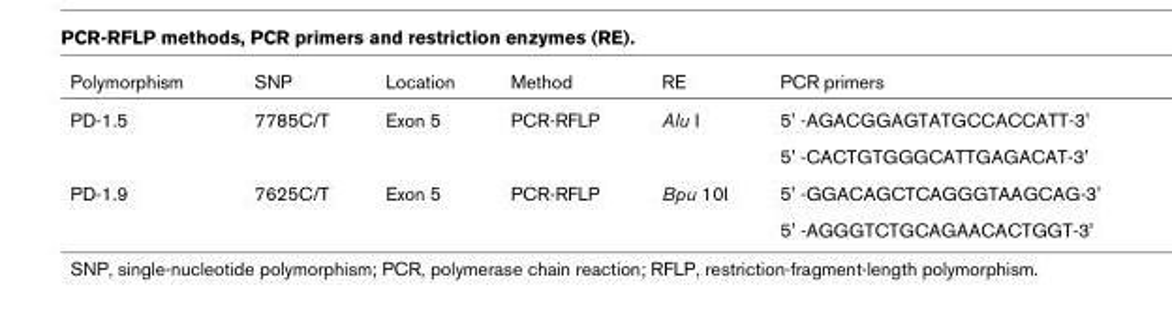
<table><thead><tr><td>Polymorphism</td><td>SNP</td><td>Location</td><td>Method</td><td>RE</td><td>PCR primers</td></tr></thead><tbody><tr><td rowspan="2">PD-1.5</td><td>7785C/T</td><td>Exon 5</td><td>PCR-RFLP</td><td>Alu I</td><td>5&#x27; -AGACGGAGTATGCCACCATT-3&#x27;</td></tr><tr><td></td><td></td><td></td><td></td><td>5&#x27; -CACTGTGGGCATTGAGACAT-3&#x27;</td></tr><tr><td rowspan="2">PD-1.9</td><td>7625C/T</td><td>Exon 5</td><td>PCR-RFLP</td><td>Bpu 10I</td><td>5&#x27; -GGACAGCTCAGGGTAAGCAG-3&#x27;</td></tr><tr><td></td><td></td><td></td><td></td><td>5&#x27; -AGGGTCTGCAGAACACTGGT-3&#x27;</td></tr></tbody></table>